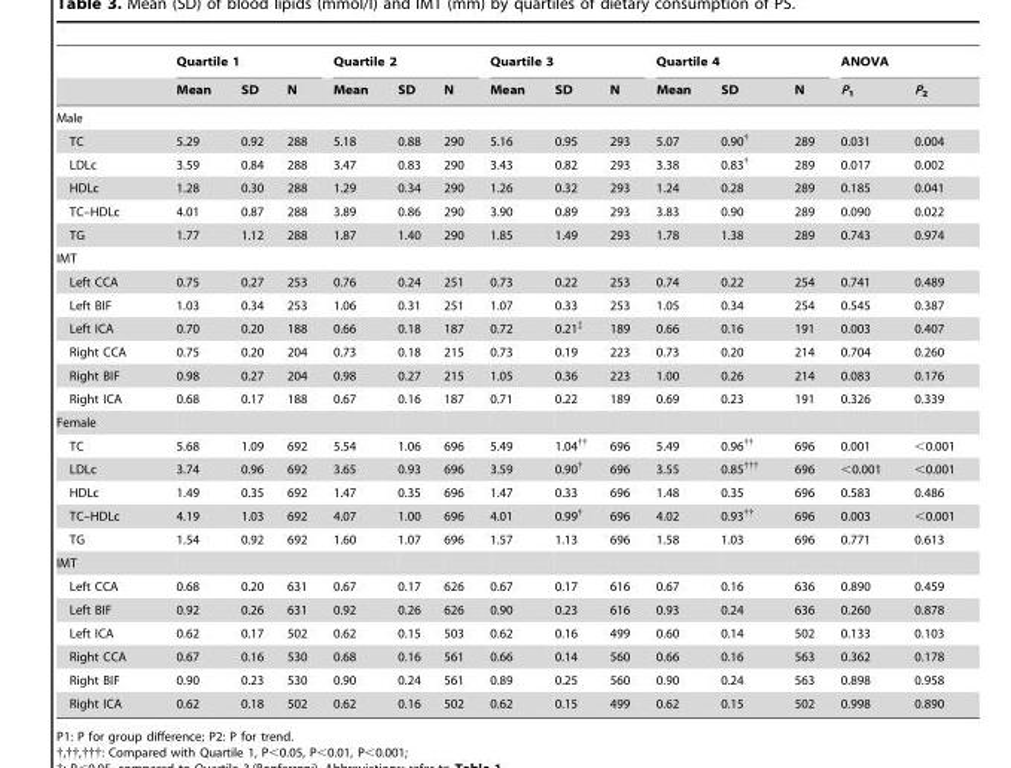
<table><thead><tr><td rowspan="2"></td><td colspan="3">Quartile 1</td><td colspan="3">Quartile 2</td><td colspan="3">Quartile 3</td><td colspan="3">Quartile 4</td><td colspan="2">ANOVA</td></tr><tr><td>Mean</td><td>SD</td><td>N</td><td>Mean</td><td>SD</td><td>N</td><td>Mean</td><td>SD</td><td>N</td><td>Mean</td><td>SD</td><td>N</td><td>P<sub>1</sub></td><td>P<sub>2</sub></td></tr></thead><tbody><tr><td colspan="15">Male</td></tr><tr><td>TC</td><td>5.29</td><td>0.92</td><td>288</td><td>5.18</td><td>0.88</td><td>290</td><td>5.16</td><td>0.95</td><td>293</td><td>5.07</td><td>0.90†</td><td>289</td><td>0.031</td><td>0.004</td></tr><tr><td>LDLc</td><td>3.59</td><td>0.84</td><td>288</td><td>3.47</td><td>0.83</td><td>290</td><td>3.43</td><td>0.82</td><td>293</td><td>3.38</td><td>0.83†</td><td>289</td><td>0.017</td><td>0.002</td></tr><tr><td>HDLc</td><td>1.28</td><td>0.30</td><td>288</td><td>1.29</td><td>0.34</td><td>290</td><td>1.26</td><td>0.32</td><td>293</td><td>1.24</td><td>0.28</td><td>289</td><td>0.185</td><td>0.041</td></tr><tr><td>TC–HDLc</td><td>4.01</td><td>0.87</td><td>288</td><td>3.89</td><td>0.86</td><td>290</td><td>3.90</td><td>0.89</td><td>293</td><td>3.83</td><td>0.90</td><td>289</td><td>0.090</td><td>0.022</td></tr><tr><td>TG</td><td>1.77</td><td>1.12</td><td>288</td><td>1.87</td><td>1.40</td><td>290</td><td>1.85</td><td>1.49</td><td>293</td><td>1.78</td><td>1.38</td><td>289</td><td>0.743</td><td>0.974</td></tr><tr><td colspan="15">IMT</td></tr><tr><td>Left CCA</td><td>0.75</td><td>0.27</td><td>253</td><td>0.76</td><td>0.24</td><td>251</td><td>0.73</td><td>0.22</td><td>253</td><td>0.74</td><td>0.22</td><td>254</td><td>0.741</td><td>0.489</td></tr><tr><td>Left BIF</td><td>1.03</td><td>0.34</td><td>253</td><td>1.06</td><td>0.31</td><td>251</td><td>1.07</td><td>0.33</td><td>253</td><td>1.05</td><td>0.34</td><td>254</td><td>0.545</td><td>0.387</td></tr><tr><td>Left ICA</td><td>0.70</td><td>0.20</td><td>188</td><td>0.66</td><td>0.18</td><td>187</td><td>0.72</td><td>0.21‡</td><td>189</td><td>0.66</td><td>0.16</td><td>191</td><td>0.003</td><td>0.407</td></tr><tr><td>Right CCA</td><td>0.75</td><td>0.20</td><td>204</td><td>0.73</td><td>0.18</td><td>215</td><td>0.73</td><td>0.19</td><td>223</td><td>0.73</td><td>0.20</td><td>214</td><td>0.704</td><td>0.260</td></tr><tr><td>Right BIF</td><td>0.98</td><td>0.27</td><td>204</td><td>0.98</td><td>0.27</td><td>215</td><td>1.05</td><td>0.36</td><td>223</td><td>1.00</td><td>0.26</td><td>214</td><td>0.083</td><td>0.176</td></tr><tr><td>Right ICA</td><td>0.68</td><td>0.17</td><td>188</td><td>0.67</td><td>0.16</td><td>187</td><td>0.71</td><td>0.22</td><td>189</td><td>0.69</td><td>0.23</td><td>191</td><td>0.326</td><td>0.339</td></tr><tr><td colspan="15">Female</td></tr><tr><td>TC</td><td>5.68</td><td>1.09</td><td>692</td><td>5.54</td><td>1.06</td><td>696</td><td>5.49</td><td>1.04††</td><td>696</td><td>5.49</td><td>0.96††</td><td>696</td><td>0.001</td><td>&lt;0.001</td></tr><tr><td>LDLc</td><td>3.74</td><td>0.96</td><td>692</td><td>3.65</td><td>0.93</td><td>696</td><td>3.59</td><td>0.90†</td><td>696</td><td>3.55</td><td>0.85†††</td><td>696</td><td>&lt;0.001</td><td>&lt;0.001</td></tr><tr><td>HDLc</td><td>1.49</td><td>0.35</td><td>692</td><td>1.47</td><td>0.35</td><td>696</td><td>1.47</td><td>0.33</td><td>696</td><td>1.48</td><td>0.35</td><td>696</td><td>0.583</td><td>0.486</td></tr><tr><td>TC–HDLc</td><td>4.19</td><td>1.03</td><td>692</td><td>4.07</td><td>1.00</td><td>696</td><td>4.01</td><td>0.99†</td><td>696</td><td>4.02</td><td>0.93††</td><td>696</td><td>0.003</td><td>&lt;0.001</td></tr><tr><td>TG</td><td>1.54</td><td>0.92</td><td>692</td><td>1.60</td><td>1.07</td><td>696</td><td>1.57</td><td>1.13</td><td>696</td><td>1.58</td><td>1.03</td><td>696</td><td>0.771</td><td>0.613</td></tr><tr><td colspan="15">IMT</td></tr><tr><td>Left CCA</td><td>0.68</td><td>0.20</td><td>631</td><td>0.67</td><td>0.17</td><td>626</td><td>0.67</td><td>0.17</td><td>616</td><td>0.67</td><td>0.16</td><td>636</td><td>0.890</td><td>0.459</td></tr><tr><td>Left BIF</td><td>0.92</td><td>0.26</td><td>631</td><td>0.92</td><td>0.26</td><td>626</td><td>0.90</td><td>0.23</td><td>616</td><td>0.93</td><td>0.24</td><td>636</td><td>0.260</td><td>0.878</td></tr><tr><td>Left ICA</td><td>0.62</td><td>0.17</td><td>502</td><td>0.62</td><td>0.15</td><td>503</td><td>0.62</td><td>0.16</td><td>499</td><td>0.60</td><td>0.14</td><td>502</td><td>0.133</td><td>0.103</td></tr><tr><td>Right CCA</td><td>0.67</td><td>0.16</td><td>530</td><td>0.68</td><td>0.16</td><td>561</td><td>0.66</td><td>0.14</td><td>560</td><td>0.66</td><td>0.16</td><td>563</td><td>0.362</td><td>0.178</td></tr><tr><td>Right BIF</td><td>0.90</td><td>0.23</td><td>530</td><td>0.90</td><td>0.24</td><td>561</td><td>0.89</td><td>0.25</td><td>560</td><td>0.90</td><td>0.24</td><td>563</td><td>0.898</td><td>0.958</td></tr><tr><td>Right ICA</td><td>0.62</td><td>0.18</td><td>502</td><td>0.62</td><td>0.16</td><td>502</td><td>0.62</td><td>0.15</td><td>499</td><td>0.62</td><td>0.15</td><td>502</td><td>0.998</td><td>0.890</td></tr></tbody></table>